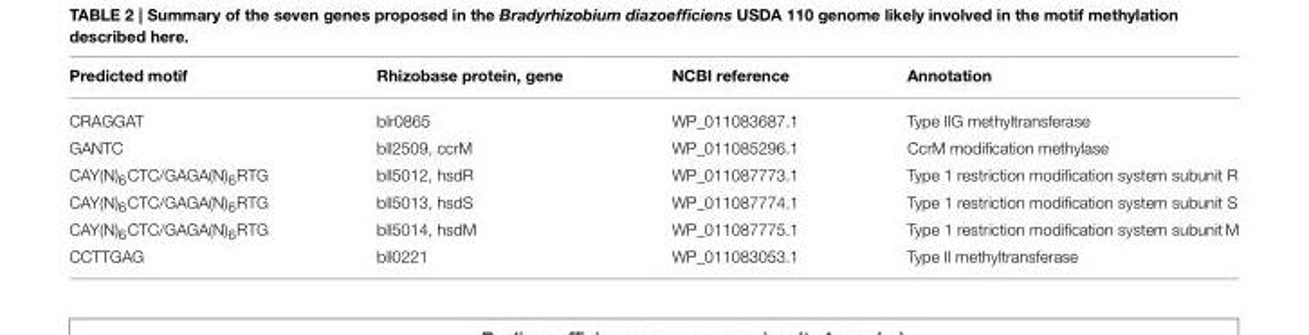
<table><thead><tr><td>Predicted motif</td><td>Rhizobase protein, gene</td><td>NCBI reference</td><td>Annotation</td></tr></thead><tbody><tr><td>CRAGGAT</td><td>blr0865</td><td>WP_011083687.1</td><td>Type IIG methyltransferase</td></tr><tr><td>GANTC</td><td>bll2509, ccrM</td><td>WP_011085296.1</td><td>CcrM modification methylase</td></tr><tr><td>CAY(N)<sub>6</sub>CTC/GAGA(N)<sub>6</sub>RTG</td><td>bll5012, hsdR</td><td>WP_011087773.1</td><td>Type 1 restriction modification system subunit R</td></tr><tr><td>CAY(N)<sub>6</sub>CTC/GAGA(N)<sub>6</sub>RTG</td><td>bll5013, hsdS</td><td>WP_011087774.1</td><td>Type 1 restriction modification system subunit S</td></tr><tr><td>CAY(N)<sub>6</sub>CTC/GAGA(N)<sub>6</sub>RTG</td><td>bll5014, hsdM</td><td>WP_011087775.1</td><td>Type 1 restriction modification system subunit M</td></tr><tr><td>CCTTGAG</td><td>bll0221</td><td>WP_011083053.1</td><td>Type II methyltransferase</td></tr></tbody></table>